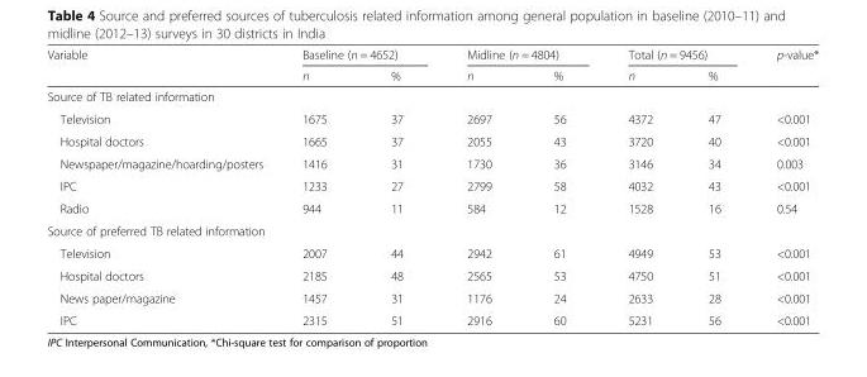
<table><thead><tr><td rowspan="2">Variable</td><td colspan="2">Baseline (n = 4652)</td><td colspan="2">Midline (n = 4804)</td><td colspan="2">Total (n = 9456)</td><td rowspan="2">p-value*</td></tr><tr><td>n</td><td>%</td><td>n</td><td>%</td><td>n</td><td>%</td></tr></thead><tbody><tr><td colspan="8">Source of TB related information</td></tr><tr><td>Television</td><td>1675</td><td>37</td><td>2697</td><td>56</td><td>4372</td><td>47</td><td>&lt;0.001</td></tr><tr><td>Hospital doctors</td><td>1665</td><td>37</td><td>2055</td><td>43</td><td>3720</td><td>40</td><td>&lt;0.001</td></tr><tr><td>Newspaper/magazine/hoarding/posters</td><td>1416</td><td>31</td><td>1730</td><td>36</td><td>3146</td><td>34</td><td>0.003</td></tr><tr><td>IPC</td><td>1233</td><td>27</td><td>2799</td><td>58</td><td>4032</td><td>43</td><td>&lt;0.001</td></tr><tr><td>Radio</td><td>944</td><td>11</td><td>584</td><td>12</td><td>1528</td><td>16</td><td>0.54</td></tr><tr><td colspan="8">Source of preferred TB related information</td></tr><tr><td>Television</td><td>2007</td><td>44</td><td>2942</td><td>61</td><td>4949</td><td>53</td><td>&lt;0.001</td></tr><tr><td>Hospital doctors</td><td>2185</td><td>48</td><td>2565</td><td>53</td><td>4750</td><td>51</td><td>&lt;0.001</td></tr><tr><td>News paper/magazine</td><td>1457</td><td>31</td><td>1176</td><td>24</td><td>2633</td><td>28</td><td>&lt;0.001</td></tr><tr><td>IPC</td><td>2315</td><td>51</td><td>2916</td><td>60</td><td>5231</td><td>56</td><td>&lt;0.001</td></tr></tbody></table>